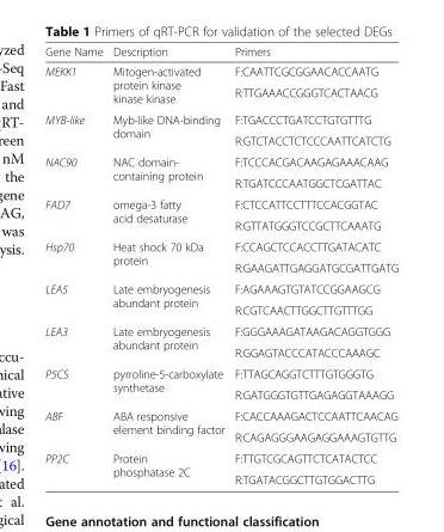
<table><thead><tr><td>Gene Name</td><td>Description</td><td>Primers</td></tr></thead><tbody><tr><td rowspan="2">MEKK1</td><td rowspan="2">Mitogen-activated protein kinase kinase kinase</td><td>F:CAATTCGCGGAACACCAATG</td></tr><tr><td>R:TTGAAACCGGGTCACTAACG</td></tr><tr><td rowspan="2">MYB-like</td><td rowspan="2">Myb-like DNA-binding domain</td><td>F:TGACCCTGATCCTGTGTTTG</td></tr><tr><td>R:GTCTACCTCTCCCAATTCATCTG</td></tr><tr><td rowspan="2">NAC90</td><td rowspan="2">NAC domain- containing protein</td><td>F:TCCCACGACAAGAGAAACAAG</td></tr><tr><td>R:TGATCCCAATGGCTCGATTAC</td></tr><tr><td rowspan="2">FAD7</td><td rowspan="2">omega-3 fatty acid desaturase</td><td>F:CTCCATTCCTTTCCACGGTAC</td></tr><tr><td>R:GTTATGGGTCCGCTTCAAATG</td></tr><tr><td rowspan="2">Hsp70</td><td rowspan="2">Heat shock 70 kDa protein</td><td>F:CCAGCTCCACCTTGATACATC</td></tr><tr><td>R:GAAGATTGAGGATGCGATTGATG</td></tr><tr><td rowspan="2">LEA5</td><td rowspan="2">Late embryogenesis abundant protein</td><td>F:AGAAAGTGTATCCGGAAGCG</td></tr><tr><td>R:CGTCAACTTGGCTTGTTTGG</td></tr><tr><td rowspan="2">LEA3</td><td rowspan="2">Late embryogenesis abundant protein</td><td>F:GGGAAAGATAAGACAGGTGGG</td></tr><tr><td>R:GGAGTACCCATACCCAAAGC</td></tr><tr><td rowspan="2">P5CS</td><td rowspan="2">pyrroline-5-carboxylate synthetase</td><td>F:TTAGCAGGTCTTTGTGGGTG</td></tr><tr><td>R:GATGGGTGTTGAGAGGTAAAGG</td></tr><tr><td rowspan="2">ABF</td><td rowspan="2">ABA responsive element binding factor</td><td>F:CACCAAAGACTCCAATTCAACAG</td></tr><tr><td>R:CAGAGGGAAGAGGAAAGTGTTG</td></tr><tr><td rowspan="2">PP2C</td><td rowspan="2">Protein phosphatase 2C</td><td>F:TTGTCGCAGTTCTCATACTCC</td></tr><tr><td>R:TGATACGGCTTGTGGACTTG</td></tr></tbody></table>